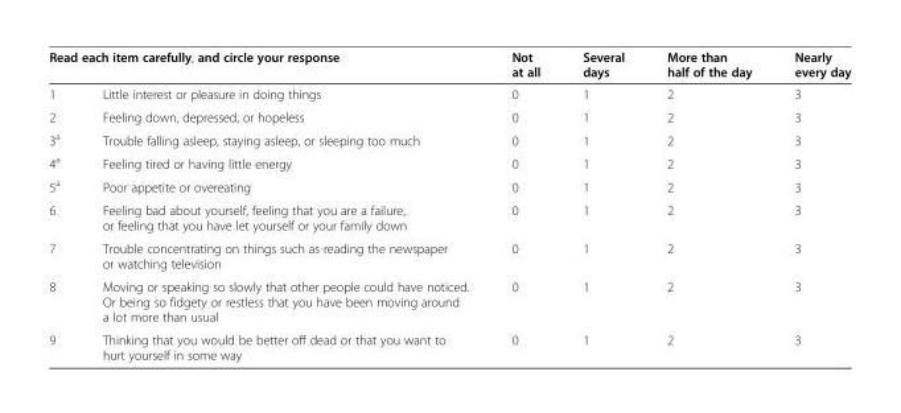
<table><thead><tr><td colspan="2">Read each item carefully, and circle your response</td><td rowspan="2">Not at all 0</td><td rowspan="2">Several days 1</td><td rowspan="2">More than half of the day 2</td><td rowspan="2">Nearly every day 3</td></tr><tr><td>1</td><td>Little interest or pleasure in doing things</td></tr></thead><tbody><tr><td>2</td><td>Feeling down, depressed, or hopeless</td><td>0</td><td>1</td><td>2</td><td>3</td></tr><tr><td>3<sup>a</sup></td><td>Trouble falling asleep, staying asleep, or sleeping too much</td><td>0</td><td>1</td><td>2</td><td>3</td></tr><tr><td>4<sup>a</sup></td><td>Feeling tired or having little energy</td><td>0</td><td>1</td><td>2</td><td>3</td></tr><tr><td>5<sup>a</sup></td><td>Poor appetite or overeating</td><td>0</td><td>1</td><td>2</td><td>3</td></tr><tr><td>6</td><td>Feeling bad about yourself, feeling that you are a failure, or feeling that you have let yourself or your family down</td><td>0</td><td>1</td><td>2</td><td>3</td></tr><tr><td>7</td><td>Trouble concentrating on things such as reading the newspaper or watching television</td><td>0</td><td>1</td><td>2</td><td>3</td></tr><tr><td>8</td><td>Moving or speaking so slowly that other people could have noticed. Or being so fidgety or restless that you have been moving around a lot more than usual</td><td>0</td><td>1</td><td>2</td><td>3</td></tr><tr><td>9</td><td>Thinking that you would be better off dead or that you want to hurt yourself in some way</td><td>0</td><td>1</td><td>2</td><td>3</td></tr></tbody></table>